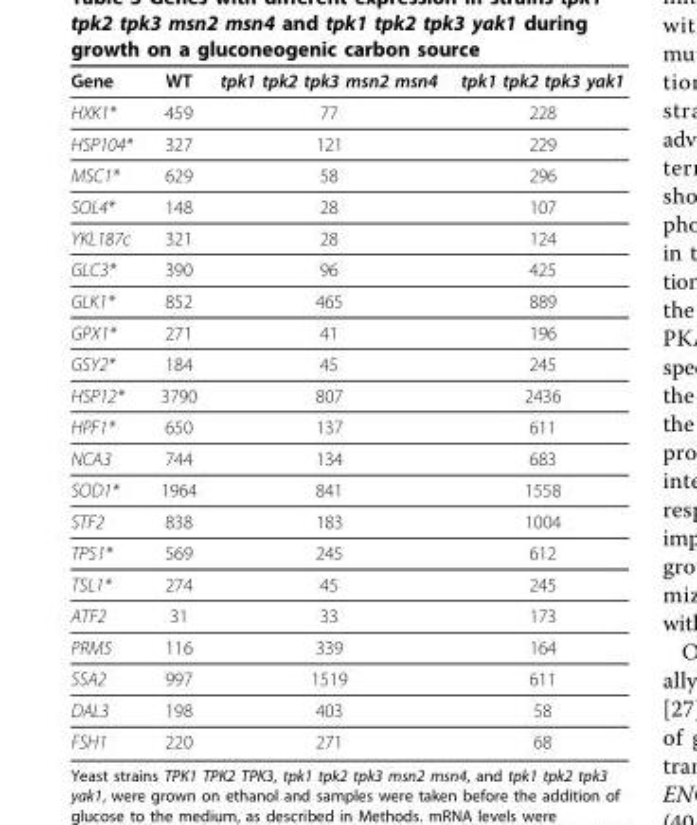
<table><thead><tr><td>Gene</td><td>WT</td><td>tpk1 tpk2 tpk3 msn2 msn4</td><td>tpk1 tpk2 tpk3 yak1</td></tr></thead><tbody><tr><td>HXK1*</td><td>459</td><td>77</td><td>228</td></tr><tr><td>HSP104*</td><td>327</td><td>121</td><td>229</td></tr><tr><td>MSC1*</td><td>629</td><td>58</td><td>296</td></tr><tr><td>SOL4*</td><td>148</td><td>28</td><td>107</td></tr><tr><td>YKL187c</td><td>321</td><td>28</td><td>124</td></tr><tr><td>GLC3*</td><td>390</td><td>96</td><td>425</td></tr><tr><td>GLK1*</td><td>852</td><td>465</td><td>889</td></tr><tr><td>GPX1*</td><td>271</td><td>41</td><td>196</td></tr><tr><td>GSY2*</td><td>184</td><td>45</td><td>245</td></tr><tr><td>HSP12*</td><td>3790</td><td>807</td><td>2436</td></tr><tr><td>HPF1*</td><td>650</td><td>137</td><td>611</td></tr><tr><td>NCA3</td><td>744</td><td>134</td><td>683</td></tr><tr><td>SOD1*</td><td>1964</td><td>841</td><td>1558</td></tr><tr><td>STF2</td><td>838</td><td>183</td><td>1004</td></tr><tr><td>TPS1*</td><td>569</td><td>245</td><td>612</td></tr><tr><td>TSL1*</td><td>274</td><td>45</td><td>245</td></tr><tr><td>ATF2</td><td>31</td><td>33</td><td>173</td></tr><tr><td>PRM5</td><td>116</td><td>339</td><td>164</td></tr><tr><td>SSA2</td><td>997</td><td>1519</td><td>611</td></tr><tr><td>DAL3</td><td>198</td><td>403</td><td>58</td></tr><tr><td>FSH1</td><td>220</td><td>271</td><td>68</td></tr></tbody></table>